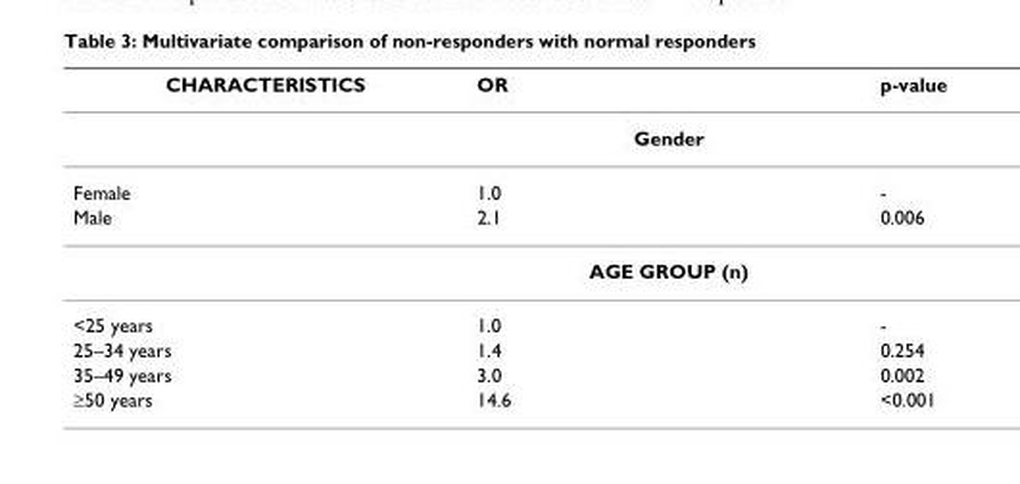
<table><thead><tr><td>CHARACTERISTICS</td><td>OR</td><td>p-value</td></tr></thead><tbody><tr><td colspan="3">Gender</td></tr><tr><td>Female</td><td>1.0</td><td>-</td></tr><tr><td>Male</td><td>2.1</td><td>0.006</td></tr><tr><td colspan="3">AGE GROUP (n)</td></tr><tr><td>&lt;25 years</td><td>1.0</td><td>-</td></tr><tr><td>25–34 years</td><td>1.4</td><td>0.254</td></tr><tr><td>35–49 years</td><td>3.0</td><td>0.002</td></tr><tr><td>≥50 years</td><td>14.6</td><td>&lt;0.001</td></tr></tbody></table>